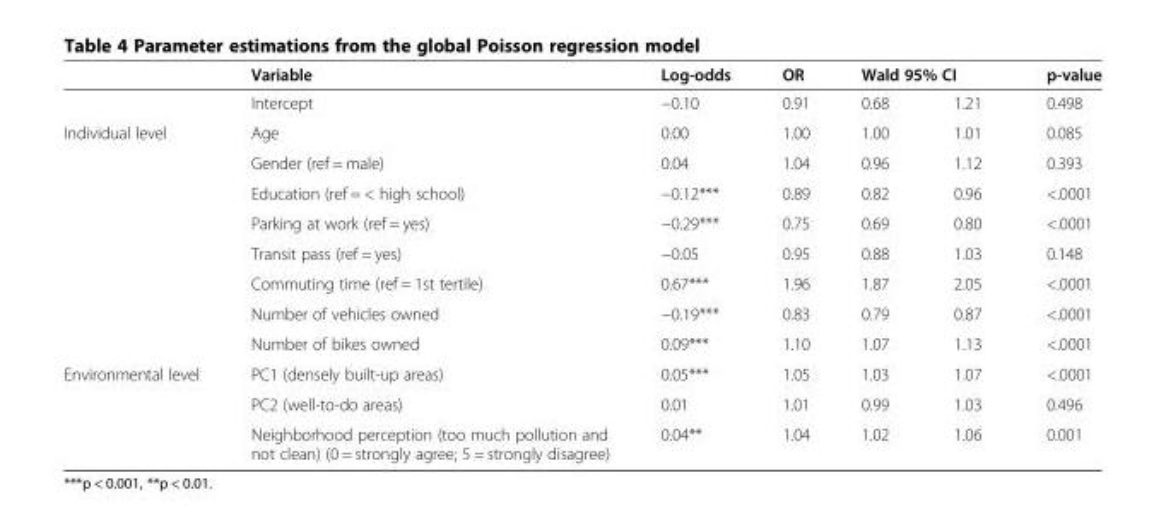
<table><thead><tr><td rowspan="2"></td><td rowspan="2">Variable Intercept</td><td rowspan="2">Log-odds −0.10</td><td rowspan="2">OR 0.91</td><td colspan="2">Wald 95% CI</td><td rowspan="2">p-value 0.498</td></tr><tr><td>0.68</td><td>1.21</td></tr></thead><tbody><tr><td rowspan="8">Individual level</td><td>Age</td><td>0.00</td><td>1.00</td><td>1.00</td><td>1.01</td><td>0.085</td></tr><tr><td>Gender (ref = male)</td><td>0.04</td><td>1.04</td><td>0.96</td><td>1.12</td><td>0.393</td></tr><tr><td>Education (ref = &lt; high school)</td><td>−0.12***</td><td>0.89</td><td>0.82</td><td>0.96</td><td>&lt;.0001</td></tr><tr><td>Parking at work (ref = yes)</td><td>−0.29***</td><td>0.75</td><td>0.69</td><td>0.80</td><td>&lt;.0001</td></tr><tr><td>Transit pass (ref = yes)</td><td>−0.05</td><td>0.95</td><td>0.88</td><td>1.03</td><td>0.148</td></tr><tr><td>Commuting time (ref = 1st tertile)</td><td>0.67***</td><td>1.96</td><td>1.87</td><td>2.05</td><td>&lt;.0001</td></tr><tr><td>Number of vehicles owned</td><td>−0.19***</td><td>0.83</td><td>0.79</td><td>0.87</td><td>&lt;.0001</td></tr><tr><td>Number of bikes owned</td><td>0.09***</td><td>1.10</td><td>1.07</td><td>1.13</td><td>&lt;.0001</td></tr><tr><td rowspan="3">Environmental level</td><td>PC1 (densely built-up areas)</td><td>0.05***</td><td>1.05</td><td>1.03</td><td>1.07</td><td>&lt;.0001</td></tr><tr><td>PC2 (well-to-do areas)</td><td>0.01</td><td>1.01</td><td>0.99</td><td>1.03</td><td>0.496</td></tr><tr><td>Neighborhood perception (too much pollution and not clean) (0 = strongly agree; 5 = strongly disagree)</td><td>0.04**</td><td>1.04</td><td>1.02</td><td>1.06</td><td>0.001</td></tr></tbody></table>